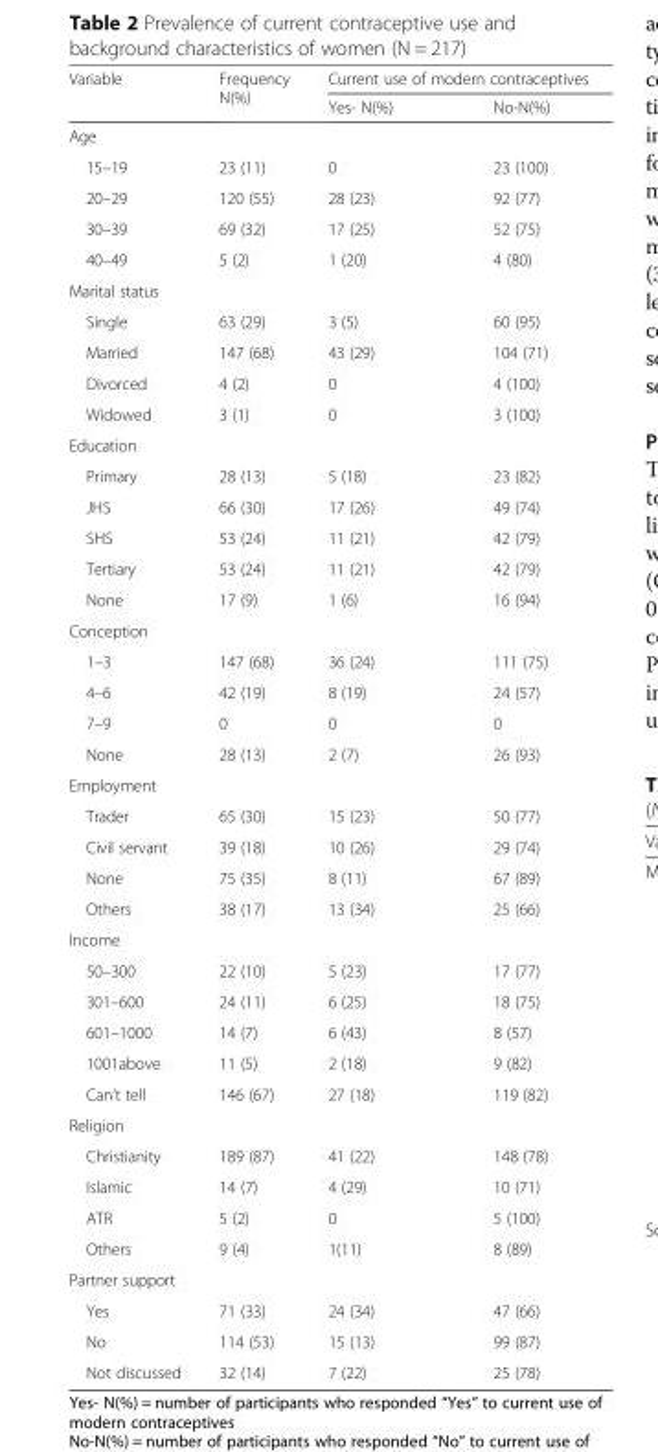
<table><thead><tr><td rowspan="2">Variable</td><td rowspan="2">Frequency N(%)</td><td colspan="2">Current use of modern contraceptives</td></tr><tr><td>Yes- N(%)</td><td>No-N(%)</td></tr></thead><tbody><tr><td colspan="4">Age</td></tr><tr><td>15–19</td><td>23 (11)</td><td>0</td><td>23 (100)</td></tr><tr><td>20–29</td><td>120 (55)</td><td>28 (23)</td><td>92 (77)</td></tr><tr><td>30–39</td><td>69 (32)</td><td>17 (25)</td><td>52 (75)</td></tr><tr><td>40–49</td><td>5 (2)</td><td>1 (20)</td><td>4 (80)</td></tr><tr><td colspan="4">Marital status</td></tr><tr><td>Single</td><td>63 (29)</td><td>3 (5)</td><td>60 (95)</td></tr><tr><td>Married</td><td>147 (68)</td><td>43 (29)</td><td>104 (71)</td></tr><tr><td>Divorced</td><td>4 (2)</td><td>0</td><td>4 (100)</td></tr><tr><td>Widowed</td><td>3 (1)</td><td>0</td><td>3 (100)</td></tr><tr><td colspan="4">Education</td></tr><tr><td>Primary</td><td>28 (13)</td><td>5 (18)</td><td>23 (82)</td></tr><tr><td>JHS</td><td>66 (30)</td><td>17 (26)</td><td>49 (74)</td></tr><tr><td>SHS</td><td>53 (24)</td><td>11 (21)</td><td>42 (79)</td></tr><tr><td>Tertiary</td><td>53 (24)</td><td>11 (21)</td><td>42 (79)</td></tr><tr><td>None</td><td>17 (9)</td><td>1 (6)</td><td>16 (94)</td></tr><tr><td colspan="4">Conception</td></tr><tr><td>1–3</td><td>147 (68)</td><td>36 (24)</td><td>111 (75)</td></tr><tr><td>4–6</td><td>42 (19)</td><td>8 (19)</td><td>24 (57)</td></tr><tr><td>7–9</td><td>0</td><td>0</td><td>0</td></tr><tr><td>None</td><td>28 (13)</td><td>2 (7)</td><td>26 (93)</td></tr><tr><td colspan="4">Employment</td></tr><tr><td>Trader</td><td>65 (30)</td><td>15 (23)</td><td>50 (77)</td></tr><tr><td>Civil servant</td><td>39 (18)</td><td>10 (26)</td><td>29 (74)</td></tr><tr><td>None</td><td>75 (35)</td><td>8 (11)</td><td>67 (89)</td></tr><tr><td>Others</td><td>38 (17)</td><td>13 (34)</td><td>25 (66)</td></tr><tr><td colspan="4">Income</td></tr><tr><td>50–300</td><td>22 (10)</td><td>5 (23)</td><td>17 (77)</td></tr><tr><td>301–600</td><td>24 (11)</td><td>6 (25)</td><td>18 (75)</td></tr><tr><td>601–1000</td><td>14 (7)</td><td>6 (43)</td><td>8 (57)</td></tr><tr><td>1001above</td><td>11 (5)</td><td>2 (18)</td><td>9 (82)</td></tr><tr><td>Can’t tell</td><td>146 (67)</td><td>27 (18)</td><td>119 (82)</td></tr><tr><td colspan="4">Religion</td></tr><tr><td>Christianity</td><td>189 (87)</td><td>41 (22)</td><td>148 (78)</td></tr><tr><td>Islamic</td><td>14 (7)</td><td>4 (29)</td><td>10 (71)</td></tr><tr><td>ATR</td><td>5 (2)</td><td>0</td><td>5 (100)</td></tr><tr><td>Others</td><td>9 (4)</td><td>1(11)</td><td>8 (89)</td></tr><tr><td colspan="4">Partner support</td></tr><tr><td>Yes</td><td>71 (33)</td><td>24 (34)</td><td>47 (66)</td></tr><tr><td>No</td><td>114 (53)</td><td>15 (13)</td><td>99 (87)</td></tr><tr><td>Not discussed</td><td>32 (14)</td><td>7 (22)</td><td>25 (78)</td></tr></tbody></table>